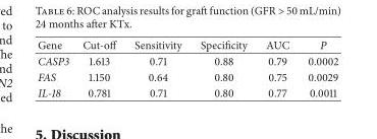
<table><thead><tr><td>Gene</td><td>Cut-off</td><td>Sensitivity</td><td>Specificity</td><td>AUC</td><td>P</td></tr></thead><tbody><tr><td>CASP3</td><td>1.613</td><td>0.71</td><td>0.88</td><td>0.79</td><td>0.0002</td></tr><tr><td>FAS</td><td>1.150</td><td>0.64</td><td>0.80</td><td>0.75</td><td>0.0029</td></tr><tr><td>IL-18</td><td>0.781</td><td>0.71</td><td>0.80</td><td>0.77</td><td>0.0011</td></tr></tbody></table>